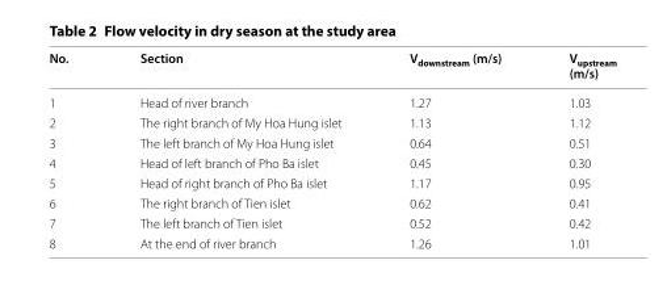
<table><thead><tr><td>No.</td><td>Section</td><td>V<sub>downstream</sub> (m/s)</td><td>V<sub>upstream</sub> (m/s)</td></tr></thead><tbody><tr><td>1</td><td>Head of river branch</td><td>1.27</td><td>1.03</td></tr><tr><td>2</td><td>The right branch of My Hoa Hung islet</td><td>1.13</td><td>1.12</td></tr><tr><td>3</td><td>The left branch of My Hoa Hung islet</td><td>0.64</td><td>0.51</td></tr><tr><td>4</td><td>Head of left branch of Pho Ba islet</td><td>0.45</td><td>0.30</td></tr><tr><td>5</td><td>Head of right branch of Pho Ba islet</td><td>1.17</td><td>0.95</td></tr><tr><td>6</td><td>The right branch of Tien islet</td><td>0.62</td><td>0.41</td></tr><tr><td>7</td><td>The left branch of Tien islet</td><td>0.52</td><td>0.42</td></tr><tr><td>8</td><td>At the end of river branch</td><td>1.26</td><td>1.01</td></tr></tbody></table>